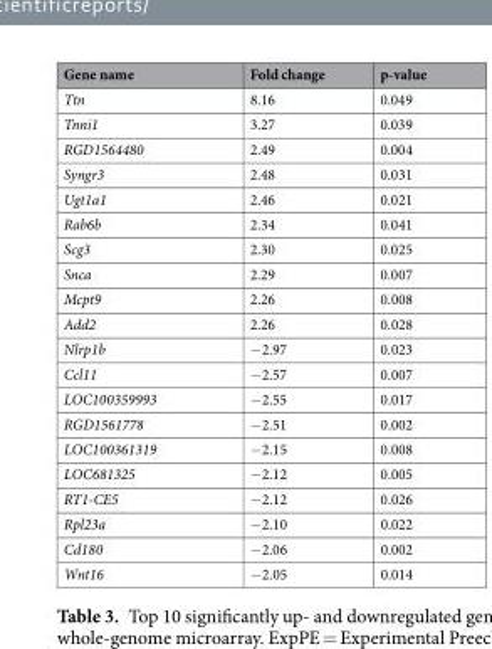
<table><thead><tr><td>Gene name</td><td>Fold change</td><td>p-value</td></tr></thead><tbody><tr><td>Ttn</td><td>8.16</td><td>0.049</td></tr><tr><td>Tnni1</td><td>3.27</td><td>0.039</td></tr><tr><td>RGD1564480</td><td>2.49</td><td>0.004</td></tr><tr><td>Syngr3</td><td>2.48</td><td>0.031</td></tr><tr><td>Ugt1a1</td><td>2.46</td><td>0.021</td></tr><tr><td>Rab6b</td><td>2.34</td><td>0.041</td></tr><tr><td>Scg3</td><td>2.30</td><td>0.025</td></tr><tr><td>Snca</td><td>2.29</td><td>0.007</td></tr><tr><td>Mcpt9</td><td>2.26</td><td>0.008</td></tr><tr><td>Add2</td><td>2.26</td><td>0.028</td></tr><tr><td>Nlrp1b</td><td>−2.97</td><td>0.023</td></tr><tr><td>Ccl11</td><td>−2.57</td><td>0.007</td></tr><tr><td>LOC100359993</td><td>−2.55</td><td>0.017</td></tr><tr><td>RGD1561778</td><td>−2.51</td><td>0.002</td></tr><tr><td>LOC100361319</td><td>−2.15</td><td>0.008</td></tr><tr><td>LOC681325</td><td>−2.12</td><td>0.005</td></tr><tr><td>RT1-CE5</td><td>−2.12</td><td>0.026</td></tr><tr><td>Rpl23a</td><td>−2.10</td><td>0.022</td></tr><tr><td>Cd180</td><td>−2.06</td><td>0.002</td></tr><tr><td>Wnt16</td><td>−2.05</td><td>0.014</td></tr></tbody></table>